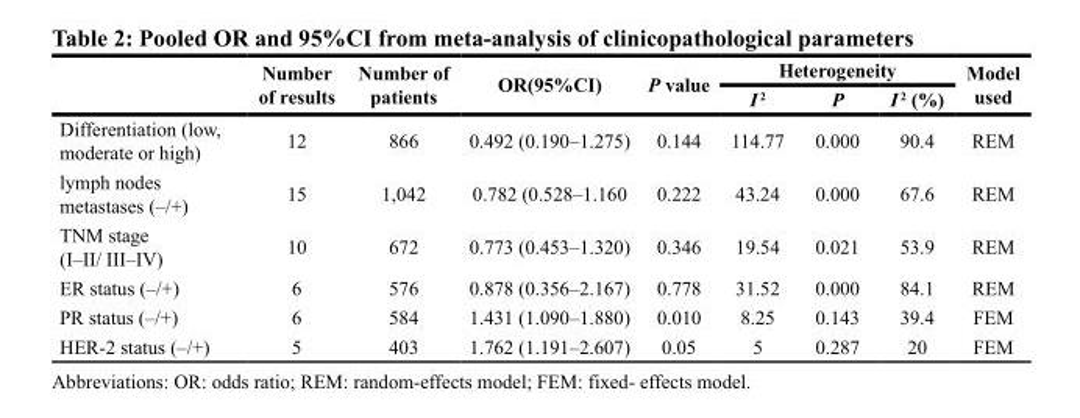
<table><thead><tr><td rowspan="2"></td><td rowspan="2">Number of results</td><td rowspan="2">Number of patients</td><td rowspan="2">OR(95%CI)</td><td rowspan="2">P value</td><td colspan="3">Heterogeneity</td><td rowspan="2">Model used</td></tr><tr><td>I <sup>2</sup></td><td>P</td><td>I <sup>2</sup> (%)</td></tr></thead><tbody><tr><td>Differentiation (low, moderate or high)</td><td>12</td><td>866</td><td>0.492 (0.190–1.275)</td><td>0.144</td><td>114.77</td><td>0.000</td><td>90.4</td><td>REM</td></tr><tr><td>lymph nodes metastases (–/+)</td><td>15</td><td>1,042</td><td>0.782 (0.528–1.160</td><td>0.222</td><td>43.24</td><td>0.000</td><td>67.6</td><td>REM</td></tr><tr><td>TNM stage (I–II/ III–IV)</td><td>10</td><td>672</td><td>0.773 (0.453–1.320)</td><td>0.346</td><td>19.54</td><td>0.021</td><td>53.9</td><td>REM</td></tr><tr><td>ER status (–/+)</td><td>6</td><td>576</td><td>0.878 (0.356–2.167)</td><td>0.778</td><td>31.52</td><td>0.000</td><td>84.1</td><td>REM</td></tr><tr><td>PR status (–/+)</td><td>6</td><td>584</td><td>1.431 (1.090–1.880)</td><td>0.010</td><td>8.25</td><td>0.143</td><td>39.4</td><td>FEM</td></tr><tr><td>HER-2 status (–/+)</td><td>5</td><td>403</td><td>1.762 (1.191–2.607)</td><td>0.05</td><td>5</td><td>0.287</td><td>20</td><td>FEM</td></tr></tbody></table>